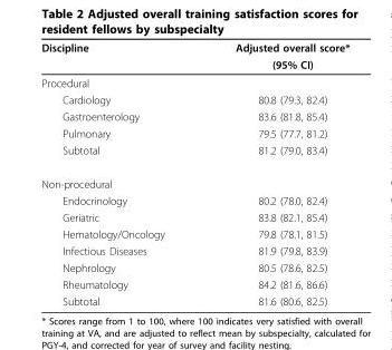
<table><thead><tr><td rowspan="2">Discipline</td><td rowspan="2">Adjusted overall score* (95% CI)</td></tr><tr></tr></thead><tbody><tr><td colspan="2">Procedural</td></tr><tr><td>Cardiology</td><td>80.8 (79.3, 82.4)</td></tr><tr><td>Gastroenterology</td><td>83.6 (81.8, 85.4)</td></tr><tr><td>Pulmonary</td><td>79.5 (77.7, 81.2)</td></tr><tr><td>Subtotal</td><td>81.2 (79.0, 83.4)</td></tr><tr><td colspan="2">Non-procedural</td></tr><tr><td>Endocrinology</td><td>80.2 (78.0, 82.4)</td></tr><tr><td>Geriatric</td><td>83.8 (82.1, 85.4)</td></tr><tr><td>Hematology/Oncology</td><td>79.8 (78.1, 81.5)</td></tr><tr><td>Infectious Diseases</td><td>81.9 (79.8, 83.9)</td></tr><tr><td>Nephrology</td><td>80.5 (78.6, 82.5)</td></tr><tr><td>Rheumatology</td><td>84.2 (81.6, 86.6)</td></tr><tr><td>Subtotal</td><td>81.6 (80.6, 82.5)</td></tr></tbody></table>